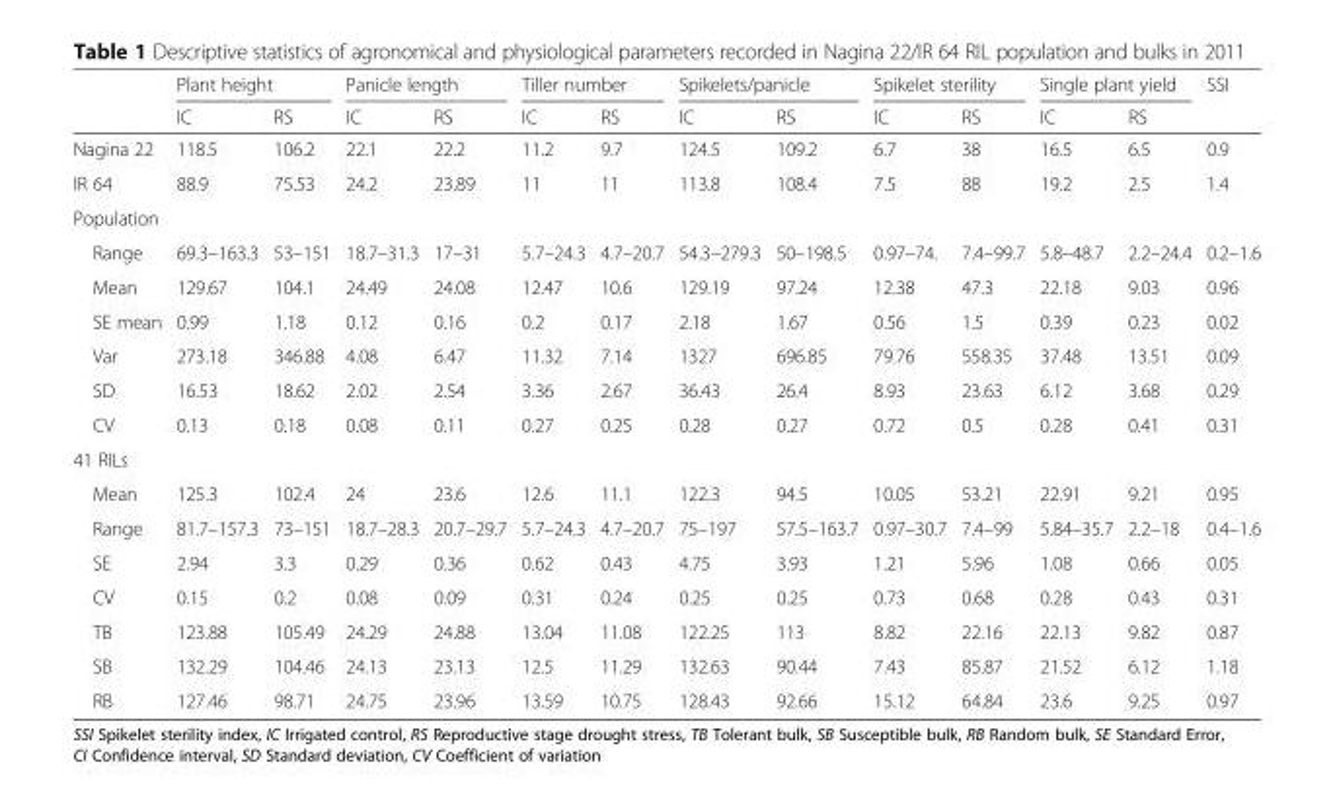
<table><thead><tr><td rowspan="2"></td><td colspan="2">Plant height</td><td colspan="2">Panicle length</td><td colspan="2">Tiller number</td><td colspan="2">Spikelets/panicle</td><td colspan="2">Spikelet sterility</td><td colspan="2">Single plant yield</td><td rowspan="2">SSI</td></tr><tr><td>IC</td><td>RS</td><td>IC</td><td>RS</td><td>IC</td><td>RS</td><td>IC</td><td>RS</td><td>IC</td><td>RS</td><td>IC</td><td>RS</td></tr></thead><tbody><tr><td>Nagina 22</td><td>118.5</td><td>106.2</td><td>22.1</td><td>22.2</td><td>11.2</td><td>9.7</td><td>124.5</td><td>109.2</td><td>6.7</td><td>38</td><td>16.5</td><td>6.5</td><td>0.9</td></tr><tr><td>IR 64</td><td>88.9</td><td>75.53</td><td>24.2</td><td>23.89</td><td>11</td><td>11</td><td>113.8</td><td>108.4</td><td>7.5</td><td>88</td><td>19.2</td><td>2.5</td><td>1.4</td></tr><tr><td colspan="14">Population</td></tr><tr><td>Range</td><td>69.3–163.3</td><td>53–151</td><td>18.7–31.3</td><td>17–31</td><td>5.7–24.3</td><td>4.7–20.7</td><td>54.3–279.3</td><td>50–198.5</td><td>0.97–74.</td><td>7.4–99.7</td><td>5.8–48.7</td><td>2.2–24.4</td><td>0.2–1.6</td></tr><tr><td>Mean</td><td>129.67</td><td>104.1</td><td>24.49</td><td>24.08</td><td>12.47</td><td>10.6</td><td>129.19</td><td>97.24</td><td>12.38</td><td>47.3</td><td>22.18</td><td>9.03</td><td>0.96</td></tr><tr><td>SE mean</td><td>0.99</td><td>1.18</td><td>0.12</td><td>0.16</td><td>0.2</td><td>0.17</td><td>2.18</td><td>1.67</td><td>0.56</td><td>1.5</td><td>0.39</td><td>0.23</td><td>0.02</td></tr><tr><td>Var</td><td>273.18</td><td>346.88</td><td>4.08</td><td>6.47</td><td>11.32</td><td>7.14</td><td>1327</td><td>696.85</td><td>79.76</td><td>558.35</td><td>37.48</td><td>13.51</td><td>0.09</td></tr><tr><td>SD</td><td>16.53</td><td>18.62</td><td>2.02</td><td>2.54</td><td>3.36</td><td>2.67</td><td>36.43</td><td>26.4</td><td>8.93</td><td>23.63</td><td>6.12</td><td>3.68</td><td>0.29</td></tr><tr><td>CV</td><td>0.13</td><td>0.18</td><td>0.08</td><td>0.11</td><td>0.27</td><td>0.25</td><td>0.28</td><td>0.27</td><td>0.72</td><td>0.5</td><td>0.28</td><td>0.41</td><td>0.31</td></tr><tr><td colspan="14">41 RILs</td></tr><tr><td>Mean</td><td>125.3</td><td>102.4</td><td>24</td><td>23.6</td><td>12.6</td><td>11.1</td><td>122.3</td><td>94.5</td><td>10.05</td><td>53.21</td><td>22.91</td><td>9.21</td><td>0.95</td></tr><tr><td>Range</td><td>81.7–157.3</td><td>73–151</td><td>18.7–28.3</td><td>20.7–29.7</td><td>5.7–24.3</td><td>4.7–20.7</td><td>75–197</td><td>57.5–163.7</td><td>0.97–30.7</td><td>7.4–99</td><td>5.84–35.7</td><td>2.2–18</td><td>0.4–1.6</td></tr><tr><td>SE</td><td>2.94</td><td>3.3</td><td>0.29</td><td>0.36</td><td>0.62</td><td>0.43</td><td>4.75</td><td>3.93</td><td>1.21</td><td>5.96</td><td>1.08</td><td>0.66</td><td>0.05</td></tr><tr><td>CV</td><td>0.15</td><td>0.2</td><td>0.08</td><td>0.09</td><td>0.31</td><td>0.24</td><td>0.25</td><td>0.25</td><td>0.73</td><td>0.68</td><td>0.28</td><td>0.43</td><td>0.31</td></tr><tr><td>TB</td><td>123.88</td><td>105.49</td><td>24.29</td><td>24.88</td><td>13.04</td><td>11.08</td><td>122.25</td><td>113</td><td>8.82</td><td>22.16</td><td>22.13</td><td>9.82</td><td>0.87</td></tr><tr><td>SB</td><td>132.29</td><td>104.46</td><td>24.13</td><td>23.13</td><td>12.5</td><td>11.29</td><td>132.63</td><td>90.44</td><td>7.43</td><td>85.87</td><td>21.52</td><td>6.12</td><td>1.18</td></tr><tr><td>RB</td><td>127.46</td><td>98.71</td><td>24.75</td><td>23.96</td><td>13.59</td><td>10.75</td><td>128.43</td><td>92.66</td><td>15.12</td><td>64.84</td><td>23.6</td><td>9.25</td><td>0.97</td></tr></tbody></table>